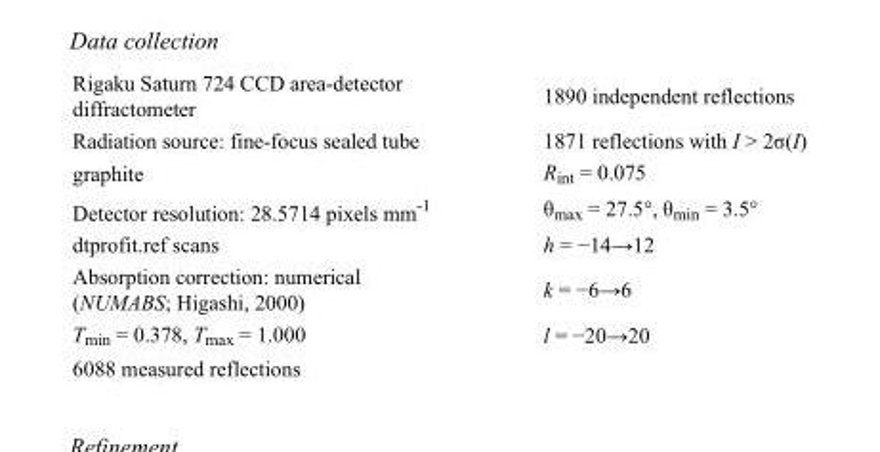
<table><tbody><tr><td>Rigaku Saturn 724 CCD area-detector diffractometer</td><td>1890 independent reflections</td></tr><tr><td>Radiation source: fine-focus sealed tube</td><td>1871 reflections with I &gt; 2σ(I)</td></tr><tr><td>graphite</td><td>R<sub>int</sub> = 0.075</td></tr><tr><td>Detector resolution: 28.5714 pixels mm<sup>-1</sup></td><td>θ<sub>max</sub> = 27.5°, θ<sub>min</sub> = 3.5°</td></tr><tr><td>dtprofit.ref scans</td><td>h = −14→12</td></tr><tr><td>Absorption correction: numerical (NUMABS; Higashi, 2000)</td><td>k = −6→6</td></tr><tr><td>T<sub>min</sub> = 0.378, T<sub>max</sub> = 1.000</td><td>l = −20→20</td></tr><tr><td>6088 measured reflections</td><td></td></tr></tbody></table>